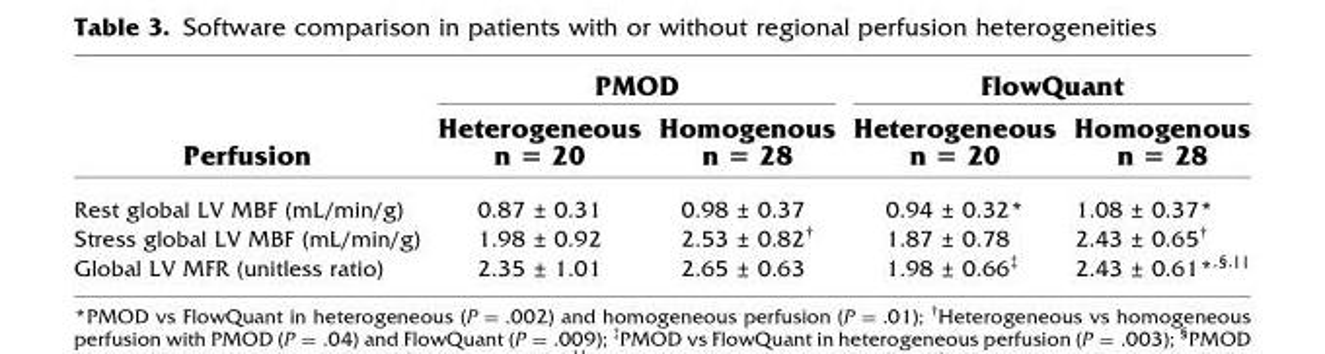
<table><thead><tr><td rowspan="2">Perfusion</td><td colspan="2">PMOD</td><td colspan="2">FlowQuant</td></tr><tr><td>Heterogeneous n = 20</td><td>Homogenous n = 28</td><td>Heterogeneous n = 20</td><td>Homogenous n = 28</td></tr></thead><tbody><tr><td>Rest global LV MBF (mL/min/g)</td><td>0.87 ± 0.31</td><td>0.98 ± 0.37</td><td>0.94 ± 0.32*</td><td>1.08 ± 0.37*</td></tr><tr><td>Stress global LV MBF (mL/min/g)</td><td>1.98 ± 0.92</td><td>2.53 ± 0.82<sup>†</sup></td><td>1.87 ± 0.78</td><td>2.43 ± 0.65<sup>†</sup></td></tr><tr><td>Global LV MFR (unitless ratio)</td><td>2.35 ± 1.01</td><td>2.65 ± 0.63</td><td>1.98 ± 0.66<sup>‡</sup></td><td>2.43 ± 0.61*<sup>,§,||</sup></td></tr></tbody></table>